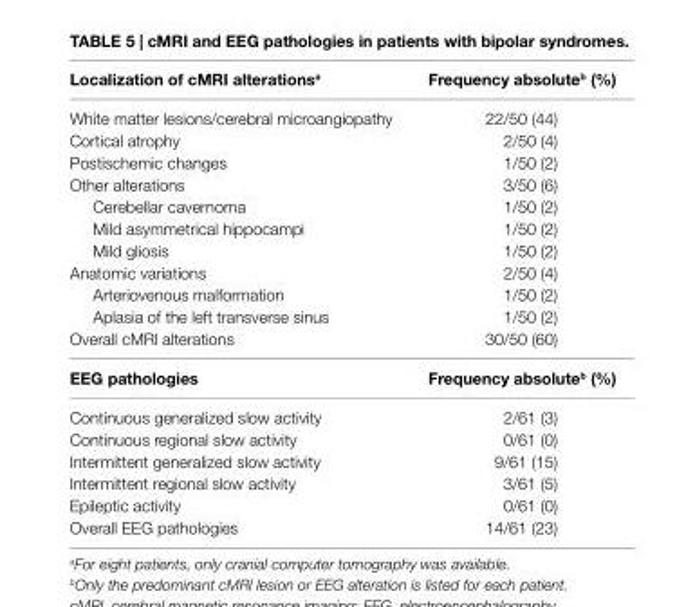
<table><thead><tr><td>localization of cMri alterations<sup>a</sup></td><td>Frequency absolute<sup>b</sup> (%)</td></tr></thead><tbody><tr><td>White matter lesions/cerebral microangiopathy</td><td>22/50 (44)</td></tr><tr><td>Cortical atrophy</td><td>2/50 (4)</td></tr><tr><td>Postischemic changes</td><td>1/50 (2)</td></tr><tr><td>Other alterations</td><td>3/50 (6)</td></tr><tr><td>Cerebellar cavernoma</td><td>1/50 (2)</td></tr><tr><td>Mild asymmetrical hippocampi</td><td>1/50 (2)</td></tr><tr><td>Mild gliosis</td><td>1/50 (2)</td></tr><tr><td>Anatomic variations</td><td>2/50 (4)</td></tr><tr><td>Arteriovenous malformation</td><td>1/50 (2)</td></tr><tr><td>Aplasia of the left transverse sinus</td><td>1/50 (2)</td></tr><tr><td>Overall cMRI alterations</td><td>30/50 (60)</td></tr><tr><td>eeg pathologies</td><td>Frequency absolute<sup>b</sup> (%)</td></tr><tr><td>Continuous generalized slow activity</td><td>2/61 (3)</td></tr><tr><td>Continuous regional slow activity</td><td>0/61 (0)</td></tr><tr><td>Intermittent generalized slow activity</td><td>9/61 (15)</td></tr><tr><td>Intermittent regional slow activity</td><td>3/61 (5)</td></tr><tr><td>Epileptic activity</td><td>0/61 (0)</td></tr><tr><td>Overall EEG pathologies</td><td>14/61 (23)</td></tr></tbody></table>